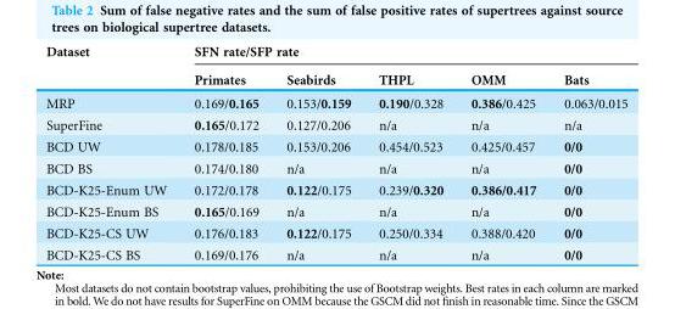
<table><thead><tr><td rowspan="2">Dataset</td><td colspan="5">SFN rate/SFP rate</td></tr><tr><td>Primates</td><td>Seabirds</td><td>THPL</td><td>OMM</td><td>Bats</td></tr></thead><tbody><tr><td>MRP</td><td>0.169/0.165</td><td>0.153/0.159</td><td>0.190/0.328</td><td>0.386/0.425</td><td>0.063/0.015</td></tr><tr><td>SuperFine</td><td>0.165/0.172</td><td>0.127/0.206</td><td>n/a</td><td>n/a</td><td>n/a</td></tr><tr><td>BCD UW</td><td>0.178/0.185</td><td>0.153/0.206</td><td>0.454/0.523</td><td>0.425/0.457</td><td>0/0</td></tr><tr><td>BCD BS</td><td>0.174/0.180</td><td>n/a</td><td>n/a</td><td>n/a</td><td>0/0</td></tr><tr><td>BCD-K25-Enum UW</td><td>0.172/0.178</td><td>0.122/0.175</td><td>0.239/0.320</td><td>0.386/0.417</td><td>0/0</td></tr><tr><td>BCD-K25-Enum BS</td><td>0.165/0.169</td><td>n/a</td><td>n/a</td><td>n/a</td><td>0/0</td></tr><tr><td>BCD-K25-CS UW</td><td>0.176/0.183</td><td>0.122/0.175</td><td>0.250/0.334</td><td>0.388/0.420</td><td>0/0</td></tr><tr><td>BCD-K25-CS BS</td><td>0.169/0.176</td><td>n/a</td><td>n/a</td><td>n/a</td><td>0/0</td></tr></tbody></table>